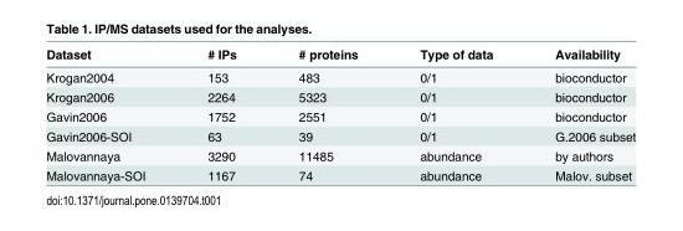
<table><thead><tr><td>Dataset</td><td># IPs</td><td># proteins</td><td>Type of data</td><td>Availability</td></tr></thead><tbody><tr><td>Krogan2004</td><td>153</td><td>483</td><td>0/1</td><td>bioconductor</td></tr><tr><td>Krogan2006</td><td>2264</td><td>5323</td><td>0/1</td><td>bioconductor</td></tr><tr><td>Gavin2006</td><td>1752</td><td>2551</td><td>0/1</td><td>bioconductor</td></tr><tr><td>Gavin2006-SOI</td><td>63</td><td>39</td><td>0/1</td><td>G.2006 subset</td></tr><tr><td>Malovannaya</td><td>3290</td><td>11485</td><td>abundance</td><td>by authors</td></tr><tr><td>Malovannaya-SOI</td><td>1167</td><td>74</td><td>abundance</td><td>Malov. subset</td></tr></tbody></table>